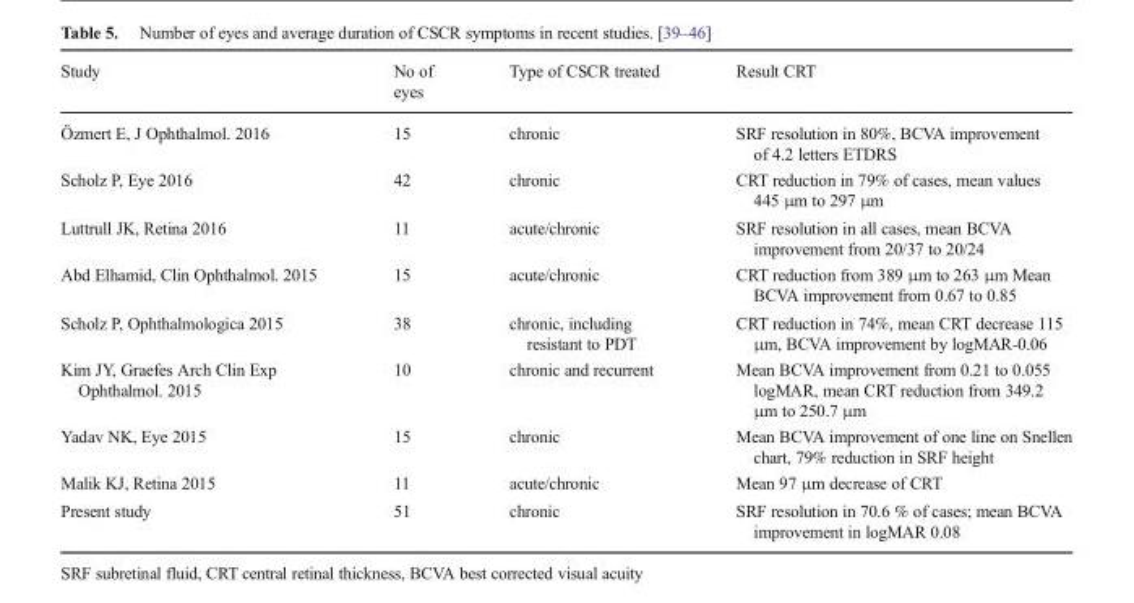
<table><thead><tr><td>Study</td><td>No of eyes</td><td>Type of CSCR treated</td><td>Result CRT</td></tr></thead><tbody><tr><td>Özmert E, J Ophthalmol. 2016</td><td>15</td><td>chronic</td><td>SRF resolution in 80%, BCVA improvement of 4.2 letters ETDRS</td></tr><tr><td>Scholz P, Eye 2016</td><td>42</td><td>chronic</td><td>CRT reduction in 79% of cases, mean values 445 μm to 297 μm</td></tr><tr><td>Luttrull JK, Retina 2016</td><td>11</td><td>acute/chronic</td><td>SRF resolution in all cases, mean BCVA improvement from 20/37 to 20/24</td></tr><tr><td>Abd Elhamid, Clin Ophthalmol. 2015</td><td>15</td><td>acute/chronic</td><td>CRT reduction from 389 μm to 263 μm Mean BCVA improvement from 0.67 to 0.85</td></tr><tr><td>Scholz P, Ophthalmologica 2015</td><td>38</td><td>chronic, including resistant to PDT</td><td>CRT reduction in 74%, mean CRT decrease 115 μm, BCVA improvement by logMAR-0.06</td></tr><tr><td>Kim JY, Graefes Arch Clin Exp Ophthalmol. 2015</td><td>10</td><td>chronic and recurrent</td><td>Mean BCVA improvement from 0.21 to 0.055 logMAR, mean CRT reduction from 349.2 μm to 250.7 μm</td></tr><tr><td>Yadav NK, Eye 2015</td><td>15</td><td>chronic</td><td>Mean BCVA improvement of one line on Snellen chart, 79% reduction in SRF height</td></tr><tr><td>Malik KJ, Retina 2015</td><td>11</td><td>acute/chronic</td><td>Mean 97 μm decrease of CRT</td></tr><tr><td>Present study</td><td>51</td><td>chronic</td><td>SRF resolution in 70.6 % of cases; mean BCVA improvement in logMAR 0.08</td></tr></tbody></table>